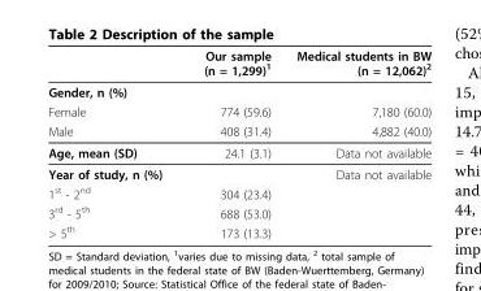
<table><thead><tr><td></td><td>Our sample (n = 1,299)<sup>1</sup></td><td>Medical students in BW (n = 12,062)<sup>2</sup></td></tr></thead><tbody><tr><td colspan="3">Gender, n (%)</td></tr><tr><td>Female</td><td>774 (59.6)</td><td>7,180 (60.0)</td></tr><tr><td>Male</td><td>408 (31.4)</td><td>4,882 (40.0)</td></tr><tr><td>Age, mean (SD)</td><td>24.1 (3.1)</td><td>Data not available</td></tr><tr><td>Year of study, n (%)</td><td></td><td>Data not available</td></tr><tr><td>1<sup>st</sup> - 2<sup>nd</sup></td><td>304 (23.4)</td><td></td></tr><tr><td>3<sup>rd</sup> - 5<sup>th</sup></td><td>688 (53.0)</td><td></td></tr><tr><td>&gt; 5<sup>th</sup></td><td>173 (13.3)</td><td></td></tr></tbody></table>